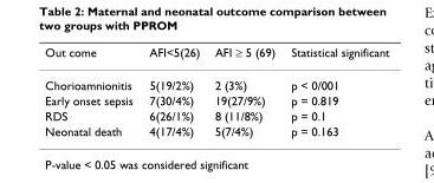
<table><thead><tr><td>Out come</td><td>AFI&lt;5(26)</td><td>AFI ≥ 5 (69)</td><td>Statistical significant</td></tr></thead><tbody><tr><td>Chorioamnionitis</td><td>5(19/2%)</td><td>2 (3%)</td><td>p &lt; 0/001</td></tr><tr><td>Early onset sepsis</td><td>7(30/4%)</td><td>19(27/9%)</td><td>p = 0.819</td></tr><tr><td>RDS</td><td>6(26/1%)</td><td>8 (11/8%)</td><td>p = 0.1</td></tr><tr><td>Neonatal death</td><td>4(17/4%)</td><td>5(7/4%)</td><td>p = 0.163</td></tr></tbody></table>